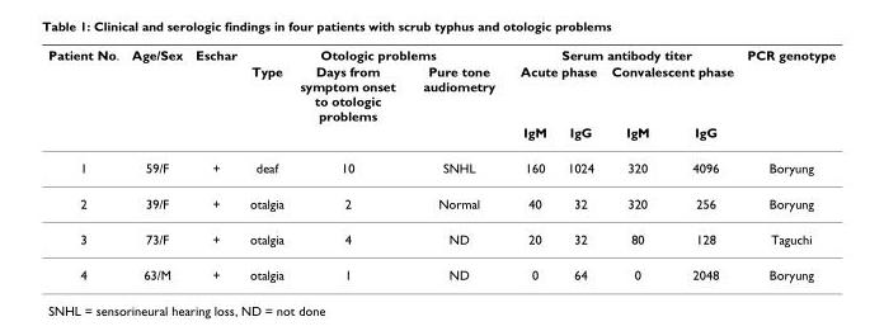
<table><thead><tr><td rowspan="3">Patient No.</td><td rowspan="3">Age/Sex</td><td rowspan="3">Eschar</td><td colspan="3">Otologic problems</td><td colspan="4">Serum antibody titer</td><td rowspan="3">PCR genotype</td></tr><tr><td rowspan="2">Type</td><td rowspan="2">Days from symptom onset to otologic problems</td><td rowspan="2">Pure tone audiometry</td><td colspan="2">Acute phase</td><td colspan="2">Convalescent phase</td></tr><tr><td>IgM</td><td>IgG</td><td>IgM</td><td>IgG</td></tr></thead><tbody><tr><td>1</td><td>59/F</td><td>+</td><td>deaf</td><td>10</td><td>SNHL</td><td>160</td><td>1024</td><td>320</td><td>4096</td><td>Boryung</td></tr><tr><td>2</td><td>39/F</td><td>+</td><td>otalgia</td><td>2</td><td>Normal</td><td>40</td><td>32</td><td>320</td><td>256</td><td>Boryung</td></tr><tr><td>3</td><td>73/F</td><td>+</td><td>otalgia</td><td>4</td><td>ND</td><td>20</td><td>32</td><td>80</td><td>128</td><td>Taguchi</td></tr><tr><td>4</td><td>63/M</td><td>+</td><td>otalgia</td><td>1</td><td>ND</td><td>0</td><td>64</td><td>0</td><td>2048</td><td>Boryung</td></tr></tbody></table>